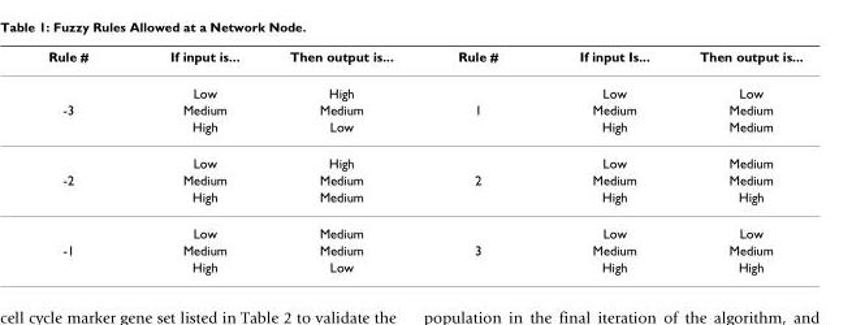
<table><thead><tr><td>Rule #</td><td>If input is...</td><td>Then output is...</td><td>Rule #</td><td>If input Is...</td><td>Then output is...</td></tr></thead><tbody><tr><td></td><td>Low</td><td>High</td><td></td><td>Low</td><td>Low</td></tr><tr><td rowspan="3">-3</td><td>Medium</td><td>Medium</td><td>1</td><td>Medium</td><td>Medium</td></tr><tr><td>High</td><td>Low</td><td></td><td>High</td><td>Medium</td></tr><tr><td>Low</td><td>High</td><td></td><td>Low</td><td>Medium</td></tr><tr><td rowspan="3">-2</td><td>Medium</td><td>Medium</td><td>2</td><td>Medium</td><td>Medium</td></tr><tr><td>High</td><td>Medium</td><td></td><td>High</td><td>High</td></tr><tr><td>Low</td><td>Medium</td><td></td><td>Low</td><td>Low</td></tr><tr><td rowspan="2">-1</td><td>Medium</td><td>Medium</td><td>3</td><td>Medium</td><td>Medium</td></tr><tr><td>High</td><td>Low</td><td></td><td>High</td><td>High</td></tr></tbody></table>